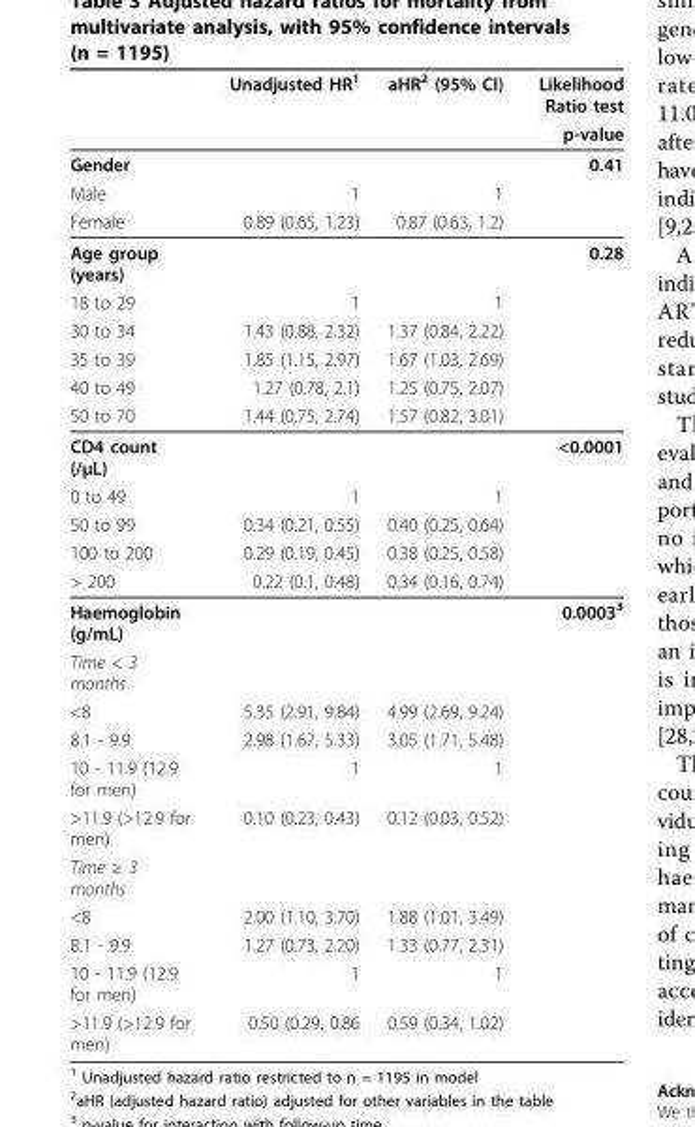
<table><thead><tr><td rowspan="2"></td><td rowspan="2">Unadjusted HR<sup>1</sup></td><td rowspan="2">aHR<sup>2</sup> (95% CI)</td><td rowspan="2">Likelihood Ratio test p-value</td></tr><tr></tr></thead><tbody><tr><td>Gender</td><td></td><td></td><td>0.41</td></tr><tr><td>Male</td><td>1</td><td>1</td><td></td></tr><tr><td>Female</td><td>0.89 (0.65, 1.23)</td><td>0.87 (0.63, 1.2)</td><td></td></tr><tr><td>Age group (years)</td><td></td><td></td><td>0.28</td></tr><tr><td>18 to 29</td><td>1</td><td>1</td><td></td></tr><tr><td>30 to 34</td><td>1.43 (0.88, 2.32)</td><td>1.37 (0.84, 2.22)</td><td></td></tr><tr><td>35 to 39</td><td>1.85 (1.15, 2.97)</td><td>1.67 (1.03, 2.69)</td><td></td></tr><tr><td>40 to 49</td><td>1.27 (0.78, 2.1)</td><td>1.25 (0.75, 2.07)</td><td></td></tr><tr><td>50 to 70</td><td>1.44 (0.75, 2.74)</td><td>1.57 (0.82, 3.01)</td><td></td></tr><tr><td>CD4 count (/μL)</td><td></td><td></td><td>&lt;0.0001</td></tr><tr><td>0 to 49</td><td>1</td><td>1</td><td></td></tr><tr><td>50 to 99</td><td>0.34 (0.21, 0.55)</td><td>0.40 (0.25, 0.64)</td><td></td></tr><tr><td>100 to 200</td><td>0.29 (0.19, 0.45)</td><td>0.38 (0.25, 0.58)</td><td></td></tr><tr><td>&gt; 200</td><td>0.22 (0.1, 0.48)</td><td>0.34 (0.16, 0.74)</td><td></td></tr><tr><td>Haemoglobin (g/mL)</td><td></td><td></td><td>0.0003<sup>3</sup></td></tr><tr><td colspan="4">Time &lt; 3 months</td></tr><tr><td>&lt;8</td><td>5.35 (2.91, 9.84)</td><td>4.99 (2.69, 9.24)</td><td></td></tr><tr><td>8.1 - 9.9</td><td>2.98 (1.67, 5.33)</td><td>3.05 (1.71, 5.48)</td><td></td></tr><tr><td>10 - 11.9 (12.9 for men)</td><td>1</td><td>1</td><td></td></tr><tr><td>&gt;11.9 (&gt;12.9 for men)</td><td>0.10 (0.23, 0.43)</td><td>0.12 (0.03, 0.52)</td><td></td></tr><tr><td colspan="4">Time ≥ 3 months</td></tr><tr><td>&lt;8</td><td>2.00 (1.10, 3.70)</td><td>1.88 (1.01, 3.49)</td><td></td></tr><tr><td>8.1 - 9.9</td><td>1.27 (0.73, 2.20)</td><td>1.33 (0.77, 2.31)</td><td></td></tr><tr><td>10 - 11.9 (12.9 for men)</td><td>1</td><td>1</td><td></td></tr><tr><td>&gt;11.9 (&gt;12.9 for men)</td><td>0.50 (0.29, 0.86</td><td>0.59 (0.34, 1.02)</td><td></td></tr></tbody></table>